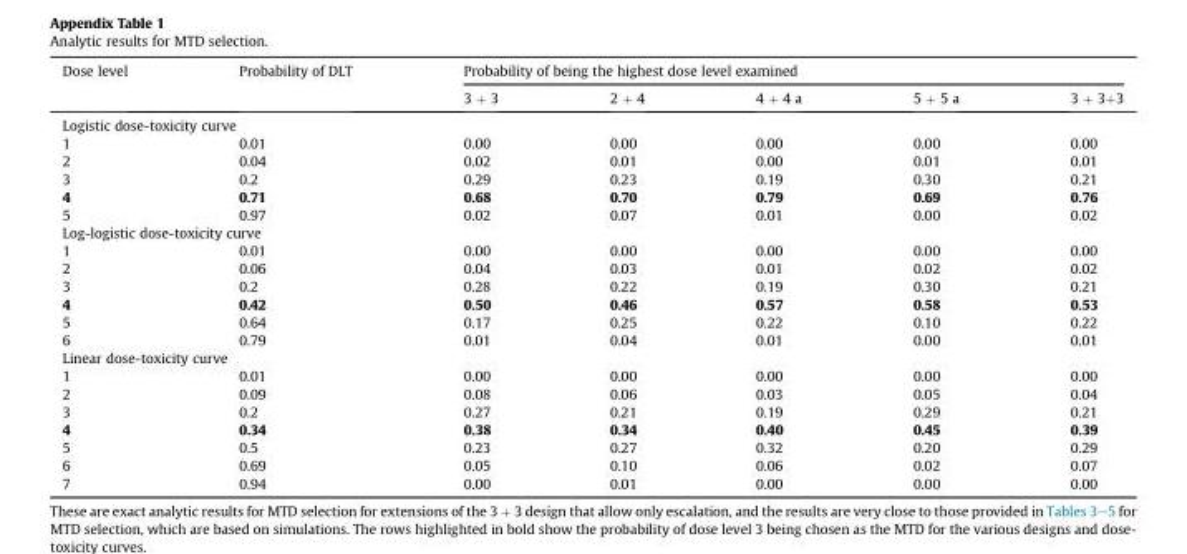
<table><thead><tr><td rowspan="2">Dose level</td><td rowspan="2">Probability of DLT</td><td colspan="5">Probability of being the highest dose level examined</td></tr><tr><td>3 + 3</td><td>2 + 4</td><td>4 + 4 a</td><td>5 + 5 a</td><td>3 + 3+3</td></tr></thead><tbody><tr><td colspan="7">Logistic dose-toxicity curve</td></tr><tr><td>1</td><td>0.01</td><td>0.00</td><td>0.00</td><td>0.00</td><td>0.00</td><td>0.00</td></tr><tr><td>2</td><td>0.04</td><td>0.02</td><td>0.01</td><td>0.00</td><td>0.01</td><td>0.01</td></tr><tr><td>3</td><td>0.2</td><td>0.29</td><td>0.23</td><td>0.19</td><td>0.30</td><td>0.21</td></tr><tr><td>4</td><td>0.71</td><td>0.68</td><td>0.70</td><td>0.79</td><td>0.69</td><td>0.76</td></tr><tr><td>5</td><td>0.97</td><td>0.02</td><td>0.07</td><td>0.01</td><td>0.00</td><td>0.02</td></tr><tr><td colspan="7">Log-logistic dose-toxicity curve</td></tr><tr><td>1</td><td>0.01</td><td>0.00</td><td>0.00</td><td>0.00</td><td>0.00</td><td>0.00</td></tr><tr><td>2</td><td>0.06</td><td>0.04</td><td>0.03</td><td>0.01</td><td>0.02</td><td>0.02</td></tr><tr><td>3</td><td>0.2</td><td>0.28</td><td>0.22</td><td>0.19</td><td>0.30</td><td>0.21</td></tr><tr><td>4</td><td>0.42</td><td>0.50</td><td>0.46</td><td>0.57</td><td>0.58</td><td>0.53</td></tr><tr><td>5</td><td>0.64</td><td>0.17</td><td>0.25</td><td>0.22</td><td>0.10</td><td>0.22</td></tr><tr><td>6</td><td>0.79</td><td>0.01</td><td>0.04</td><td>0.01</td><td>0.00</td><td>0.01</td></tr><tr><td colspan="7">Linear dose-toxicity curve</td></tr><tr><td>1</td><td>0.01</td><td>0.00</td><td>0.00</td><td>0.00</td><td>0.00</td><td>0.00</td></tr><tr><td>2</td><td>0.09</td><td>0.08</td><td>0.06</td><td>0.03</td><td>0.05</td><td>0.04</td></tr><tr><td>3</td><td>0.2</td><td>0.27</td><td>0.21</td><td>0.19</td><td>0.29</td><td>0.21</td></tr><tr><td>4</td><td>0.34</td><td>0.38</td><td>0.34</td><td>0.40</td><td>0.45</td><td>0.39</td></tr><tr><td>5</td><td>0.5</td><td>0.23</td><td>0.27</td><td>0.32</td><td>0.20</td><td>0.29</td></tr><tr><td>6</td><td>0.69</td><td>0.05</td><td>0.10</td><td>0.06</td><td>0.02</td><td>0.07</td></tr><tr><td>7</td><td>0.94</td><td>0.00</td><td>0.01</td><td>0.00</td><td>0.00</td><td>0.00</td></tr></tbody></table>